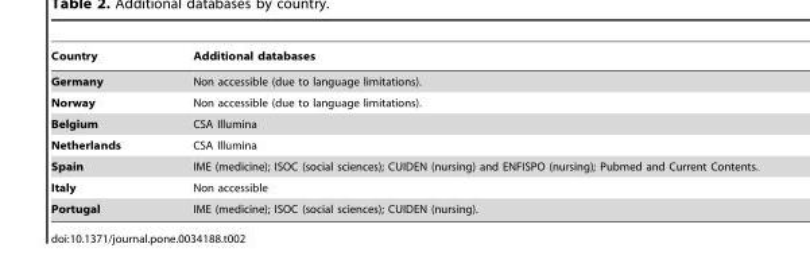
<table><thead><tr><td>Country</td><td>Additional databases</td></tr></thead><tbody><tr><td>Germany</td><td>Non accessible (due to language limitations).</td></tr><tr><td>Norway</td><td>Non accessible (due to language limitations).</td></tr><tr><td>Belgium</td><td>CSA Illumina</td></tr><tr><td>Netherlands</td><td>CSA Illumina</td></tr><tr><td>Spain</td><td>IME (medicine); ISOC (social sciences); CUIDEN (nursing) and ENFISPO (nursing); Pubmed and Current Contents.</td></tr><tr><td>Italy</td><td>Non accessible</td></tr><tr><td>Portugal</td><td>IME (medicine); ISOC (social sciences); CUIDEN (nursing).</td></tr></tbody></table>